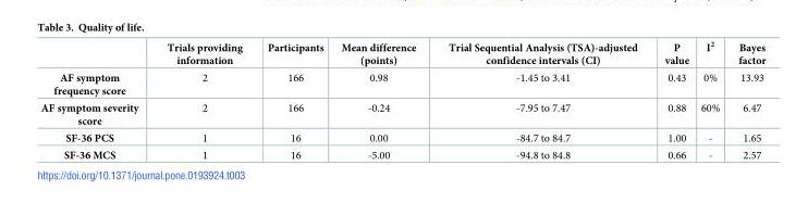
<table><thead><tr><td></td><td>Trials providing information</td><td>Participants</td><td>Mean difference (points)</td><td>Trial Sequential Analysis (TSA)-adjusted confidence intervals (CI)</td><td>P value</td><td>I<sup>2</sup></td><td>Bayes factor</td></tr></thead><tbody><tr><td>AF symptom frequency score</td><td>2</td><td>166</td><td>0.98</td><td>-1.45 to 3.41</td><td>0.43</td><td>0%</td><td>13.93</td></tr><tr><td>AF symptom severity score</td><td>2</td><td>166</td><td>-0.24</td><td>-7.95 to 7.47</td><td>0.88</td><td>60%</td><td>6.47</td></tr><tr><td>SF-36 PCS</td><td>1</td><td>16</td><td>0.00</td><td>-84.7 to 84.7</td><td>1.00</td><td>-</td><td>1.65</td></tr><tr><td>SF-36 MCS</td><td>1</td><td>16</td><td>-5.00</td><td>-94.8 to 84.8</td><td>0.66</td><td>-</td><td>2.57</td></tr></tbody></table>